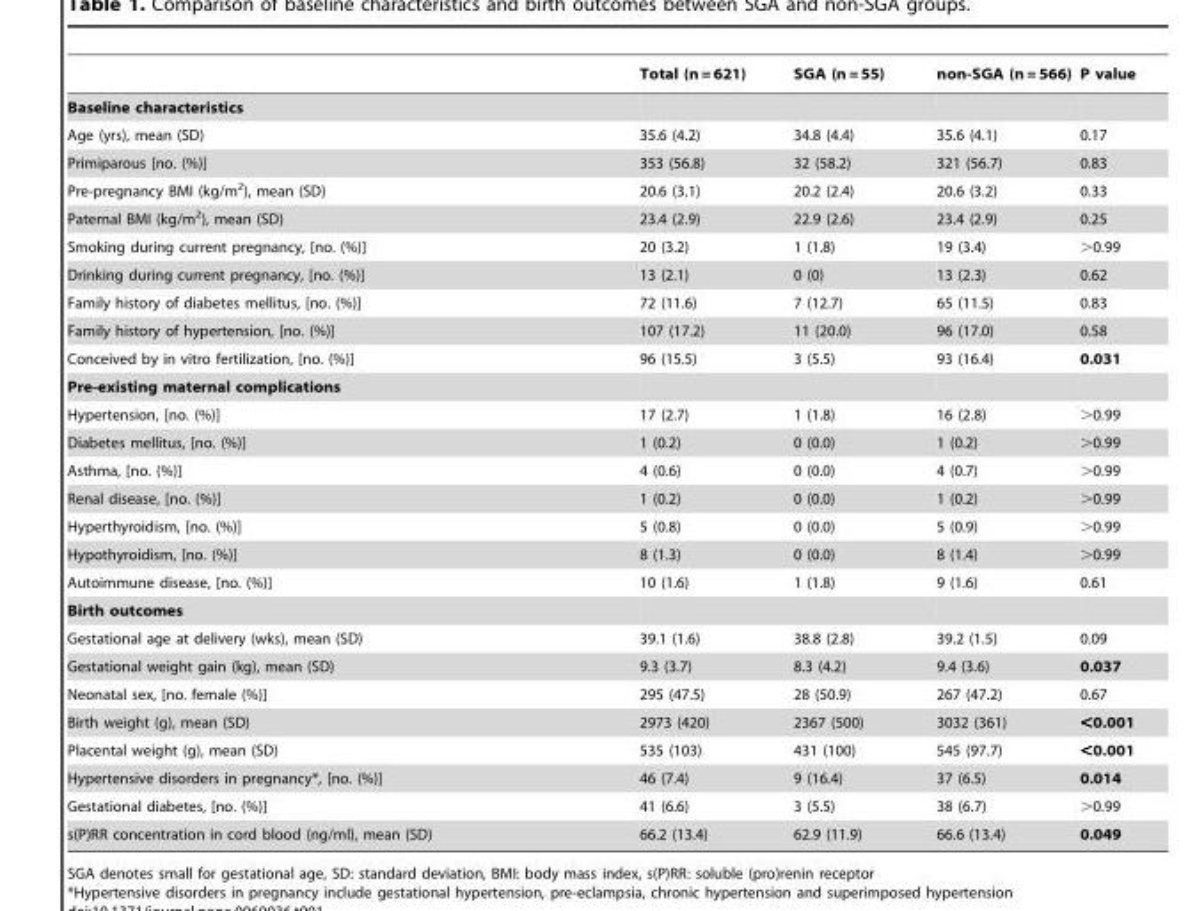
<table><thead><tr><td></td><td>Total (n = 621)</td><td>SGA (n = 55)</td><td>non-SGA (n = 566)</td><td>P value</td></tr></thead><tbody><tr><td colspan="5">Baseline characteristics</td></tr><tr><td>Age (yrs), mean (SD)</td><td>35.6 (4.2)</td><td>34.8 (4.4)</td><td>35.6 (4.1)</td><td>0.17</td></tr><tr><td>Primiparous [no. (%)]</td><td>353 (56.8)</td><td>32 (58.2)</td><td>321 (56.7)</td><td>0.83</td></tr><tr><td>Pre-pregnancy BMI (kg/m<sup>2</sup>), mean (SD)</td><td>20.6 (3.1)</td><td>20.2 (2.4)</td><td>20.6 (3.2)</td><td>0.33</td></tr><tr><td>Paternal BMI (kg/m<sup>2</sup>), mean (SD)</td><td>23.4 (2.9)</td><td>22.9 (2.6)</td><td>23.4 (2.9)</td><td>0.25</td></tr><tr><td>Smoking during current pregnancy, [no. (%)]</td><td>20 (3.2)</td><td>1 (1.8)</td><td>19 (3.4)</td><td>&gt;0.99</td></tr><tr><td>Drinking during current pregnancy, [no. (%)]</td><td>13 (2.1)</td><td>0 (0)</td><td>13 (2.3)</td><td>0.62</td></tr><tr><td>Family history of diabetes mellitus, [no. (%)]</td><td>72 (11.6)</td><td>7 (12.7)</td><td>65 (11.5)</td><td>0.83</td></tr><tr><td>Family history of hypertension, [no. (%)]</td><td>107 (17.2)</td><td>11 (20.0)</td><td>96 (17.0)</td><td>0.58</td></tr><tr><td>Conceived by in vitro fertilization, [no. (%)]</td><td>96 (15.5)</td><td>3 (5.5)</td><td>93 (16.4)</td><td>0.031</td></tr><tr><td colspan="5">Pre-existing maternal complications</td></tr><tr><td>Hypertension, [no. (%)]</td><td>17 (2.7)</td><td>1 (1.8)</td><td>16 (2.8)</td><td>&gt;0.99</td></tr><tr><td>Diabetes mellitus, [no. (%)]</td><td>1 (0.2)</td><td>0 (0.0)</td><td>1 (0.2)</td><td>&gt;0.99</td></tr><tr><td>Asthma, [no. (%)]</td><td>4 (0.6)</td><td>0 (0.0)</td><td>4 (0.7)</td><td>&gt;0.99</td></tr><tr><td>Renal disease, [no. (%)]</td><td>1 (0.2)</td><td>0 (0.0)</td><td>1 (0.2)</td><td>&gt;0.99</td></tr><tr><td>Hyperthyroidism, [no. (%)]</td><td>5 (0.8)</td><td>0 (0.0)</td><td>5 (0.9)</td><td>&gt;0.99</td></tr><tr><td>Hypothyroidism, [no. (%)]</td><td>8 (1.3)</td><td>0 (0.0)</td><td>8 (1.4)</td><td>&gt;0.99</td></tr><tr><td>Autoimmune disease, [no. (%)]</td><td>10 (1.6)</td><td>1 (1.8)</td><td>9 (1.6)</td><td>0.61</td></tr><tr><td colspan="5">Birth outcomes</td></tr><tr><td>Gestational age at delivery (wks), mean (SD)</td><td>39.1 (1.6)</td><td>38.8 (2.8)</td><td>39.2 (1.5)</td><td>0.09</td></tr><tr><td>Gestational weight gain (kg), mean (SD)</td><td>9.3 (3.7)</td><td>8.3 (4.2)</td><td>9.4 (3.6)</td><td>0.037</td></tr><tr><td>Neonatal sex, [no. female (%)]</td><td>295 (47.5)</td><td>28 (50.9)</td><td>267 (47.2)</td><td>0.67</td></tr><tr><td>Birth weight (g), mean (SD)</td><td>2973 (420)</td><td>2367 (500)</td><td>3032 (361)</td><td>&lt;0.001</td></tr><tr><td>Placental weight (g), mean (SD)</td><td>535 (103)</td><td>431 (100)</td><td>545 (97.7)</td><td>&lt;0.001</td></tr><tr><td>Hypertensive disorders in pregnancy*, [no. (%)]</td><td>46 (7.4)</td><td>9 (16.4)</td><td>37 (6.5)</td><td>0.014</td></tr><tr><td>Gestational diabetes, [no. (%)]</td><td>41 (6.6)</td><td>3 (5.5)</td><td>38 (6.7)</td><td>&gt;0.99</td></tr><tr><td>s(P)RR concentration in cord blood (ng/ml), mean (SD)</td><td>66.2 (13.4)</td><td>62.9 (11.9)</td><td>66.6 (13.4)</td><td>0.049</td></tr></tbody></table>